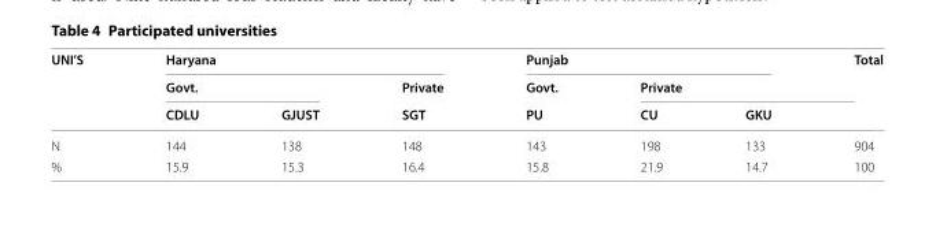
<table><thead><tr><td rowspan="3">UNI’S</td><td colspan="3">Haryana</td><td colspan="3">Punjab</td><td rowspan="3">Total</td></tr><tr><td colspan="2">Govt.</td><td rowspan="2">Private SGT</td><td rowspan="2">Govt. PU</td><td colspan="2">Private</td></tr><tr><td>CDLU</td><td>GJUST</td><td>CU</td><td>GKU</td></tr></thead><tbody><tr><td>N</td><td>144</td><td>138</td><td>148</td><td>143</td><td>198</td><td>133</td><td>904</td></tr><tr><td>%</td><td>15.9</td><td>15.3</td><td>16.4</td><td>15.8</td><td>21.9</td><td>14.7</td><td>100</td></tr></tbody></table>